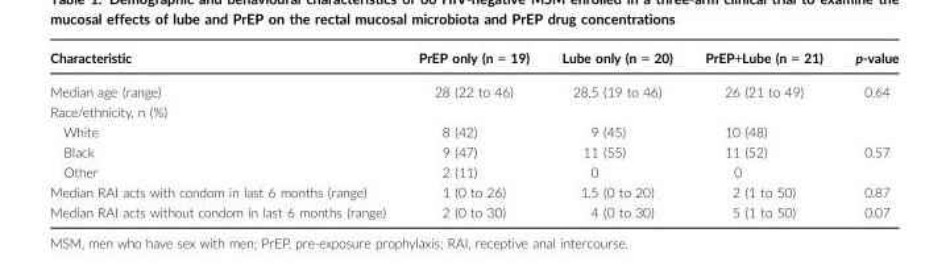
<table><thead><tr><td>Characteristic</td><td>PrEP only (n = 19)</td><td>Lube only (n = 20)</td><td>PrEP+Lube (n = 21)</td><td>p-value</td></tr></thead><tbody><tr><td>Median age (range)</td><td>28 (22 to 46)</td><td>28.5 (19 to 46)</td><td>26 (21 to 49)</td><td>0.64</td></tr><tr><td colspan="5">Race/ethnicity, n (%)</td></tr><tr><td>White</td><td>8 (42)</td><td>9 (45)</td><td>10 (48)</td><td></td></tr><tr><td>Black</td><td>9 (47)</td><td>11 (55)</td><td>11 (52)</td><td>0.57</td></tr><tr><td>Other</td><td>2 (11)</td><td>0</td><td>0</td><td></td></tr><tr><td>Median RAI acts with condom in last 6 months (range)</td><td>1 (0 to 26)</td><td>1.5 (0 to 20)</td><td>2 (1 to 50)</td><td>0.87</td></tr><tr><td>Median RAI acts without condom in last 6 months (range)</td><td>2 (0 to 30)</td><td>4 (0 to 30)</td><td>5 (1 to 50)</td><td>0.07</td></tr></tbody></table>